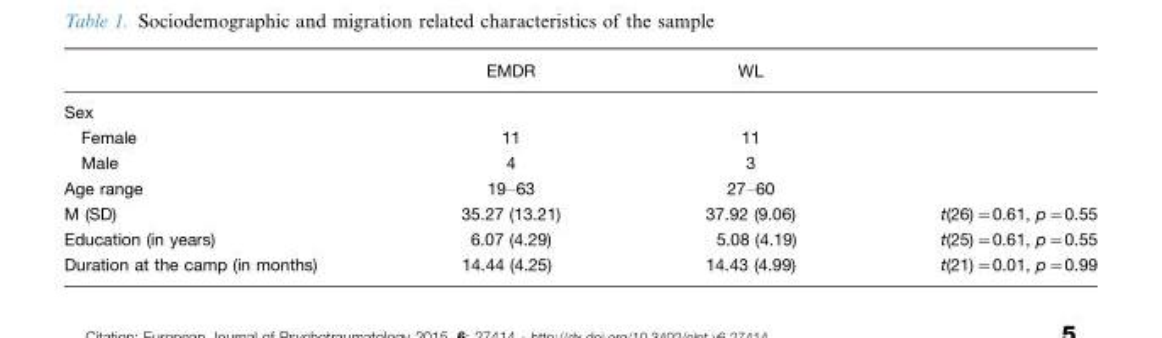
<table><thead><tr><td></td><td>EMDR</td><td>WL</td><td></td></tr></thead><tbody><tr><td colspan="4">Sex</td></tr><tr><td>Female</td><td>11</td><td>11</td><td></td></tr><tr><td>Male</td><td>4</td><td>3</td><td></td></tr><tr><td>Age range</td><td>19–63</td><td>27–60</td><td></td></tr><tr><td>M (SD)</td><td>35.27 (13.21)</td><td>37.92 (9.06)</td><td>t(26)=0.61, p=0.55</td></tr><tr><td>Education (in years)</td><td>6.07 (4.29)</td><td>5.08 (4.19)</td><td>t(25)=0.61, p=0.55</td></tr><tr><td>Duration at the camp (in months)</td><td>14.44 (4.25)</td><td>14.43 (4.99)</td><td>t(21)=0.01, p=0.99</td></tr></tbody></table>